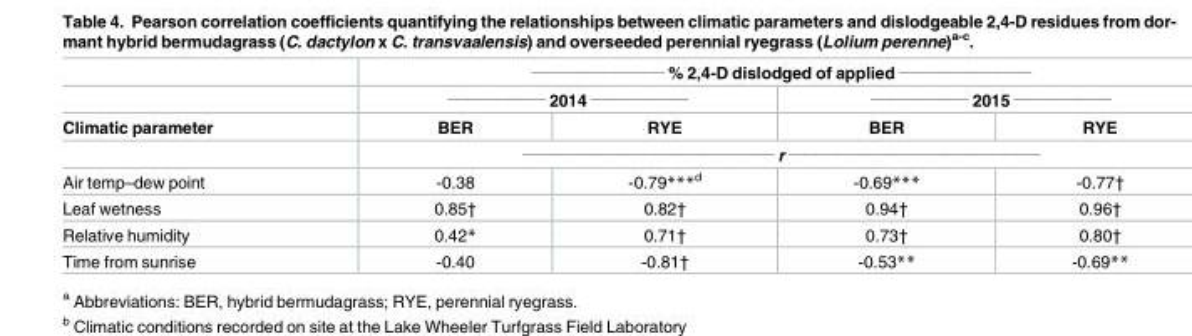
<table><thead><tr><td rowspan="4">Climatic parameter</td><td colspan="4">___________________ % 2,4-D dislodged of applied ___________________</td></tr><tr><td colspan="2"><sup>______________</sup> 2014 <sup>______________</sup></td><td colspan="2"><sup>______________</sup> 2015 <sup>______________</sup></td></tr><tr><td>BER</td><td>RYE</td><td>BER</td><td>RYE</td></tr><tr><td colspan="4">____________________________________ r ____________________________________</td></tr></thead><tbody><tr><td>Air temp–dew point</td><td>-0.38</td><td>-0.79***<sup>d</sup></td><td>-0.69***</td><td>-0.77†</td></tr><tr><td>Leaf wetness</td><td>0.85†</td><td>0.82†</td><td>0.94†</td><td>0.96†</td></tr><tr><td>Relative humidity</td><td>0.42*</td><td>0.71†</td><td>0.73†</td><td>0.80†</td></tr><tr><td>Time from sunrise</td><td>-0.40</td><td>-0.81†</td><td>-0.53**</td><td>-0.69**</td></tr></tbody></table>